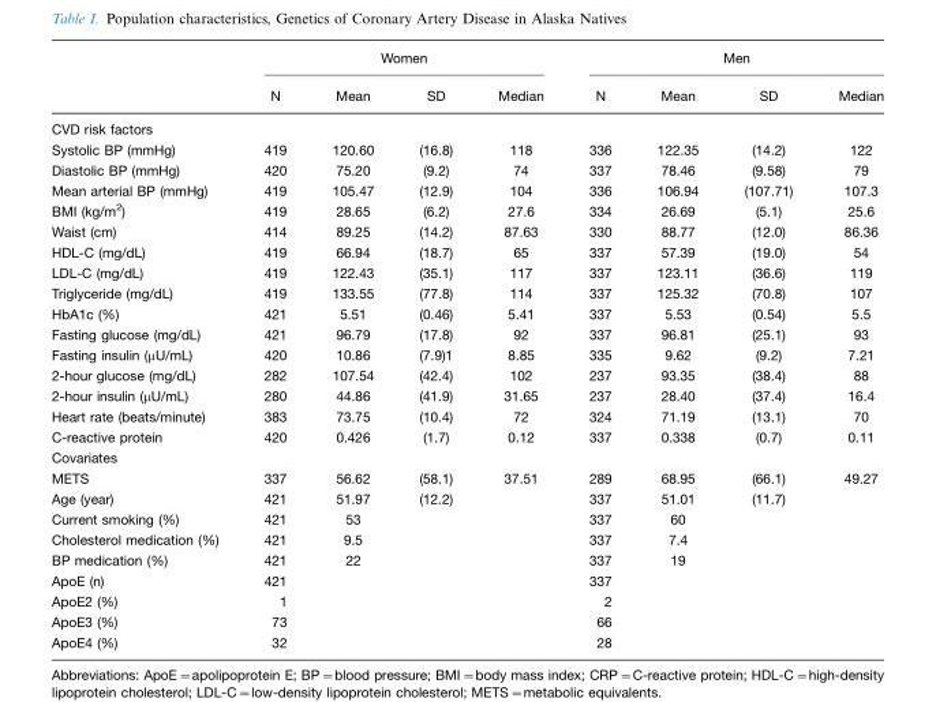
<table><thead><tr><td rowspan="2"></td><td colspan="4">Women</td><td colspan="4">Men</td></tr><tr><td>N</td><td>Mean</td><td>SD</td><td>Median</td><td>N</td><td>Mean</td><td>SD</td><td>Median</td></tr></thead><tbody><tr><td colspan="9">CVD risk factors</td></tr><tr><td>Systolic BP (mmHg)</td><td>419</td><td>120.60</td><td>(16.8)</td><td>118</td><td>336</td><td>122.35</td><td>(14.2)</td><td>122</td></tr><tr><td>Diastolic BP (mmHg)</td><td>420</td><td>75.20</td><td>(9.2)</td><td>74</td><td>337</td><td>78.46</td><td>(9.58)</td><td>79</td></tr><tr><td>Mean arterial BP (mmHg)</td><td>419</td><td>105.47</td><td>(12.9)</td><td>104</td><td>336</td><td>106.94</td><td>(107.71)</td><td>107.3</td></tr><tr><td>BMI (kg/m<sup>2</sup>)</td><td>419</td><td>28.65</td><td>(6.2)</td><td>27.6</td><td>334</td><td>26.69</td><td>(5.1)</td><td>25.6</td></tr><tr><td>Waist (cm)</td><td>414</td><td>89.25</td><td>(14.2)</td><td>87.63</td><td>330</td><td>88.77</td><td>(12.0)</td><td>86.36</td></tr><tr><td>HDL-C (mg/dL)</td><td>419</td><td>66.94</td><td>(18.7)</td><td>65</td><td>337</td><td>57.39</td><td>(19.0)</td><td>54</td></tr><tr><td>LDL-C (mg/dL)</td><td>419</td><td>122.43</td><td>(35.1)</td><td>117</td><td>337</td><td>123.11</td><td>(36.6)</td><td>119</td></tr><tr><td>Triglyceride (mg/dL)</td><td>419</td><td>133.55</td><td>(77.8)</td><td>114</td><td>337</td><td>125.32</td><td>(70.8)</td><td>107</td></tr><tr><td>HbA1c (%)</td><td>421</td><td>5.51</td><td>(0.46)</td><td>5.41</td><td>337</td><td>5.53</td><td>(0.54)</td><td>5.5</td></tr><tr><td>Fasting glucose (mg/dL)</td><td>421</td><td>96.79</td><td>(17.8)</td><td>92</td><td>337</td><td>96.81</td><td>(25.1)</td><td>93</td></tr><tr><td>Fasting insulin (µU/mL)</td><td>420</td><td>10.86</td><td>(7.9)1</td><td>8.85</td><td>335</td><td>9.62</td><td>(9.2)</td><td>7.21</td></tr><tr><td>2-hour glucose (mg/dL)</td><td>282</td><td>107.54</td><td>(42.4)</td><td>102</td><td>237</td><td>93.35</td><td>(38.4)</td><td>88</td></tr><tr><td>2-hour insulin (µU/mL)</td><td>280</td><td>44.86</td><td>(41.9)</td><td>31.65</td><td>237</td><td>28.40</td><td>(37.4)</td><td>16.4</td></tr><tr><td>Heart rate (beats/minute)</td><td>383</td><td>73.75</td><td>(10.4)</td><td>72</td><td>324</td><td>71.19</td><td>(13.1)</td><td>70</td></tr><tr><td>C-reactive protein</td><td>420</td><td>0.426</td><td>(1.7)</td><td>0.12</td><td>337</td><td>0.338</td><td>(0.7)</td><td>0.11</td></tr><tr><td colspan="9">Covariates</td></tr><tr><td>METS</td><td>337</td><td>56.62</td><td>(58.1)</td><td>37.51</td><td>289</td><td>68.95</td><td>(66.1)</td><td>49.27</td></tr><tr><td>Age (year)</td><td>421</td><td>51.97</td><td>(12.2)</td><td></td><td>337</td><td>51.01</td><td>(11.7)</td><td></td></tr><tr><td>Current smoking (%)</td><td>421</td><td>53</td><td></td><td></td><td>337</td><td>60</td><td></td><td></td></tr><tr><td>Cholesterol medication (%)</td><td>421</td><td>9.5</td><td></td><td></td><td>337</td><td>7.4</td><td></td><td></td></tr><tr><td>BP medication (%)</td><td>421</td><td>22</td><td></td><td></td><td>337</td><td>19</td><td></td><td></td></tr><tr><td>ApoE (n)</td><td>421</td><td></td><td></td><td></td><td>337</td><td></td><td></td><td></td></tr><tr><td>ApoE2 (%)</td><td>1</td><td></td><td></td><td></td><td>2</td><td></td><td></td><td></td></tr><tr><td>ApoE3 (%)</td><td>73</td><td></td><td></td><td></td><td>66</td><td></td><td></td><td></td></tr><tr><td>ApoE4 (%)</td><td>32</td><td></td><td></td><td></td><td>28</td><td></td><td></td><td></td></tr></tbody></table>